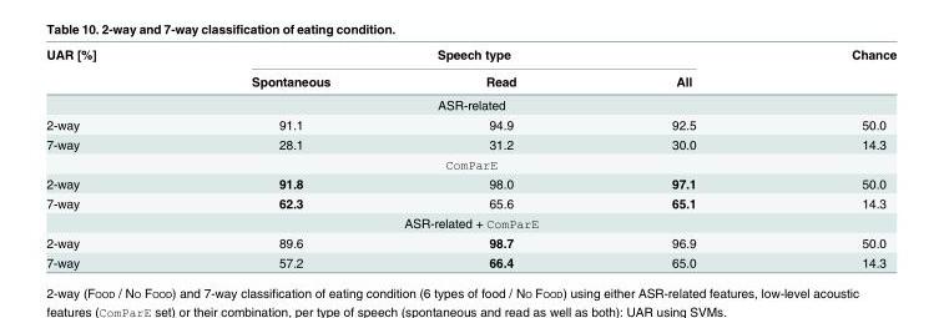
<table><thead><tr><td rowspan="2">UAR [%]</td><td colspan="3">Speech type</td><td rowspan="2">Chance</td></tr><tr><td>Spontaneous</td><td>Read</td><td>All</td></tr></thead><tbody><tr><td colspan="5">ASR-related</td></tr><tr><td>2-way</td><td>91.1</td><td>94.9</td><td>92.5</td><td>50.0</td></tr><tr><td>7-way</td><td>28.1</td><td>31.2</td><td>30.0</td><td>14.3</td></tr><tr><td colspan="5">ComParE</td></tr><tr><td>2-way</td><td>91.8</td><td>98.0</td><td>97.1</td><td>50.0</td></tr><tr><td>7-way</td><td>62.3</td><td>65.6</td><td>65.1</td><td>14.3</td></tr><tr><td colspan="5">ASR-related + ComParE</td></tr><tr><td>2-way</td><td>89.6</td><td>98.7</td><td>96.9</td><td>50.0</td></tr><tr><td>7-way</td><td>57.2</td><td>66.4</td><td>65.0</td><td>14.3</td></tr></tbody></table>